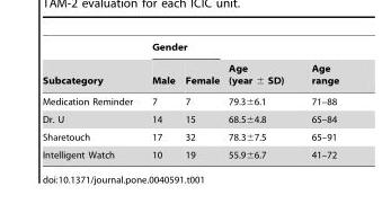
<table><thead><tr><td rowspan="2">Subcategory</td><td colspan="2">Gender</td><td rowspan="2">Age (year ± SD)</td><td rowspan="2">Age range</td></tr><tr><td>Male</td><td>Female</td></tr></thead><tbody><tr><td>Medication Reminder</td><td>7</td><td>7</td><td>79.3±6.1</td><td>71–88</td></tr><tr><td>Dr. U</td><td>14</td><td>15</td><td>68.5±4.8</td><td>65–84</td></tr><tr><td>Sharetouch</td><td>17</td><td>32</td><td>78.3±7.5</td><td>65–91</td></tr><tr><td>Intelligent Watch</td><td>10</td><td>19</td><td>55.9±6.7</td><td>41–72</td></tr></tbody></table>